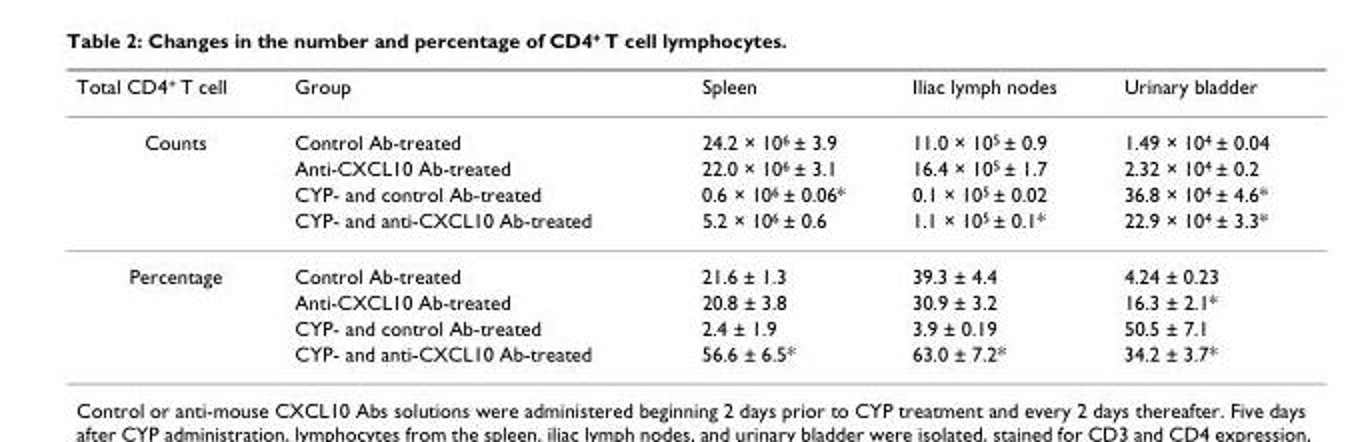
<table><thead><tr><td>Total CD4<sup>+</sup> T cell</td><td>Group</td><td>Spleen</td><td>Iliac lymph nodes</td><td>Urinary bladder</td></tr></thead><tbody><tr><td rowspan="4">Counts</td><td>Control Ab-treated</td><td>24.2 × 10<sup>6</sup> ± 3.9</td><td>11.0 × 10<sup>5</sup> ± 0.9</td><td>1.49 × 10<sup>4</sup> ± 0.04</td></tr><tr><td>Anti-CXCL10 Ab-treated</td><td>22.0 × 10<sup>6</sup> ± 3.1</td><td>16.4 × 10<sup>5</sup> ± 1.7</td><td>2.32 × 10<sup>4</sup> ± 0.2</td></tr><tr><td>CYP- and control Ab-treated</td><td>0.6 × 10<sup>6</sup> ± 0.06*</td><td>0.1 × 10<sup>5</sup> ± 0.02</td><td>36.8 × 10<sup>4</sup> ± 4.6*</td></tr><tr><td>CYP- and anti-CXCL10 Ab-treated</td><td>5.2 × 10<sup>6</sup> ± 0.6</td><td>1.1 × 10<sup>5</sup> ± 0.1*</td><td>22.9 × 10<sup>4</sup> ± 3.3*</td></tr><tr><td rowspan="4">Percentage</td><td>Control Ab-treated</td><td>21.6 ± 1.3</td><td>39.3 ± 4.4</td><td>4.24 ± 0.23</td></tr><tr><td>Anti-CXCL10 Ab-treated</td><td>20.8 ± 3.8</td><td>30.9 ± 3.2</td><td>16.3 ± 2.1*</td></tr><tr><td>CYP- and control Ab-treated</td><td>2.4 ± 1.9</td><td>3.9 ± 0.19</td><td>50.5 ± 7.1</td></tr><tr><td>CYP- and anti-CXCL10 Ab-treated</td><td>56.6 ± 6.5*</td><td>63.0 ± 7.2*</td><td>34.2 ± 3.7*</td></tr></tbody></table>